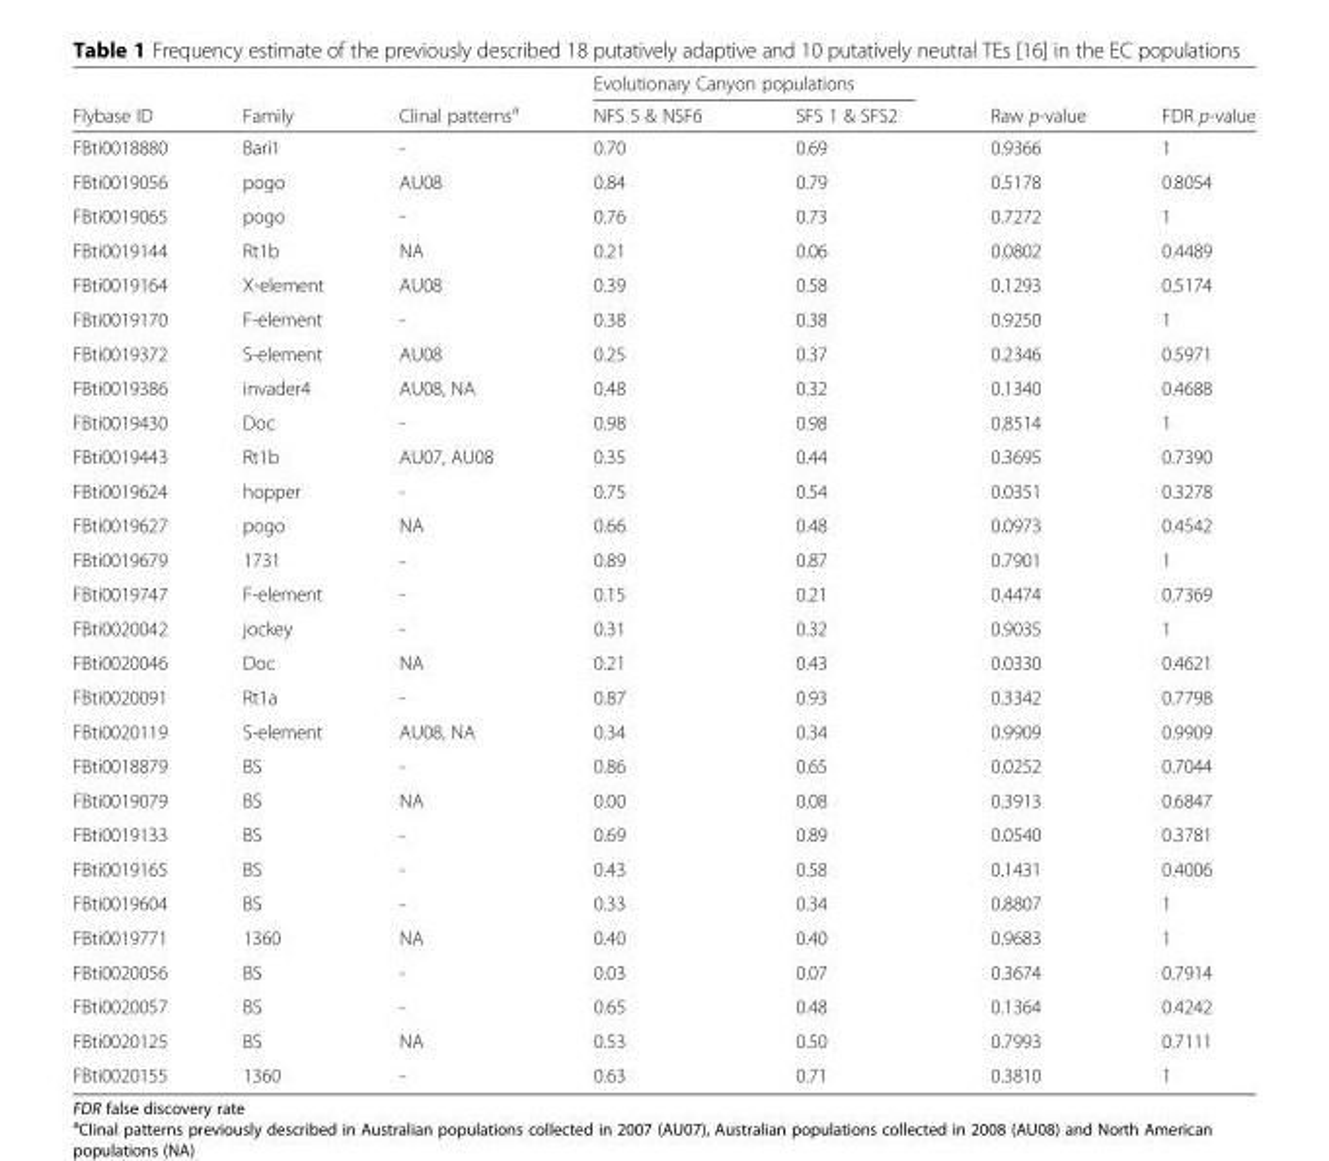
<table><thead><tr><td rowspan="2">Flybase ID</td><td rowspan="2">Family</td><td rowspan="2">Clinal patterns<sup>a</sup></td><td colspan="2">Evolutionary Canyon populations</td><td rowspan="2">Raw p-value</td><td rowspan="2">FDR p-value</td></tr><tr><td>NFS 5 &amp; NSF6</td><td>SFS 1 &amp; SFS2</td></tr></thead><tbody><tr><td>FBti0018880</td><td>Bari1</td><td>-</td><td>0.70</td><td>0.69</td><td>0.9366</td><td>1</td></tr><tr><td>FBti0019056</td><td>pogo</td><td>AU08</td><td>0.84</td><td>0.79</td><td>0.5178</td><td>0.8054</td></tr><tr><td>FBti0019065</td><td>pogo</td><td>-</td><td>0.76</td><td>0.73</td><td>0.7272</td><td>1</td></tr><tr><td>FBti0019144</td><td>Rt1b</td><td>NA</td><td>0.21</td><td>0.06</td><td>0.0802</td><td>0.4489</td></tr><tr><td>FBti0019164</td><td>X-element</td><td>AU08</td><td>0.39</td><td>0.58</td><td>0.1293</td><td>0.5174</td></tr><tr><td>FBti0019170</td><td>F-element</td><td>-</td><td>0.38</td><td>0.38</td><td>0.9250</td><td>1</td></tr><tr><td>FBti0019372</td><td>S-element</td><td>AU08</td><td>0.25</td><td>0.37</td><td>0.2346</td><td>0.5971</td></tr><tr><td>FBti0019386</td><td>invader4</td><td>AU08, NA</td><td>0.48</td><td>0.32</td><td>0.1340</td><td>0.4688</td></tr><tr><td>FBti0019430</td><td>Doc</td><td>-</td><td>0.98</td><td>0.98</td><td>0.8514</td><td>1</td></tr><tr><td>FBti0019443</td><td>Rt1b</td><td>AU07, AU08</td><td>0.35</td><td>0.44</td><td>0.3695</td><td>0.7390</td></tr><tr><td>FBti0019624</td><td>hopper</td><td>-</td><td>0.75</td><td>0.54</td><td>0.0351</td><td>0.3278</td></tr><tr><td>FBti0019627</td><td>pogo</td><td>NA</td><td>0.66</td><td>0.48</td><td>0.0973</td><td>0.4542</td></tr><tr><td>FBti0019679</td><td>1731</td><td>-</td><td>0.89</td><td>0.87</td><td>0.7901</td><td>1</td></tr><tr><td>FBti0019747</td><td>F-element</td><td>-</td><td>0.15</td><td>0.21</td><td>0.4474</td><td>0.7369</td></tr><tr><td>FBti0020042</td><td>jockey</td><td>-</td><td>0.31</td><td>0.32</td><td>0.9035</td><td>1</td></tr><tr><td>FBti0020046</td><td>Doc</td><td>NA</td><td>0.21</td><td>0.43</td><td>0.0330</td><td>0.4621</td></tr><tr><td>FBti0020091</td><td>Rt1a</td><td>-</td><td>0.87</td><td>0.93</td><td>0.3342</td><td>0.7798</td></tr><tr><td>FBti0020119</td><td>S-element</td><td>AU08, NA</td><td>0.34</td><td>0.34</td><td>0.9909</td><td>0.9909</td></tr><tr><td>FBti0018879</td><td>BS</td><td>-</td><td>0.86</td><td>0.65</td><td>0.0252</td><td>0.7044</td></tr><tr><td>FBti0019079</td><td>BS</td><td>NA</td><td>0.00</td><td>0.08</td><td>0.3913</td><td>0.6847</td></tr><tr><td>FBti0019133</td><td>BS</td><td>-</td><td>0.69</td><td>0.89</td><td>0.0540</td><td>0.3781</td></tr><tr><td>FBti0019165</td><td>BS</td><td>-</td><td>0.43</td><td>0.58</td><td>0.1431</td><td>0.4006</td></tr><tr><td>FBti0019604</td><td>BS</td><td>-</td><td>0.33</td><td>0.34</td><td>0.8807</td><td>1</td></tr><tr><td>FBti0019771</td><td>1360</td><td>NA</td><td>0.40</td><td>0.40</td><td>0.9683</td><td>1</td></tr><tr><td>FBti0020056</td><td>BS</td><td>-</td><td>0.03</td><td>0.07</td><td>0.3674</td><td>0.7914</td></tr><tr><td>FBti0020057</td><td>BS</td><td>-</td><td>0.65</td><td>0.48</td><td>0.1364</td><td>0.4242</td></tr><tr><td>FBti0020125</td><td>BS</td><td>NA</td><td>0.53</td><td>0.50</td><td>0.7993</td><td>0.7111</td></tr><tr><td>FBti0020155</td><td>1360</td><td>-</td><td>0.63</td><td>0.71</td><td>0.3810</td><td>1</td></tr></tbody></table>